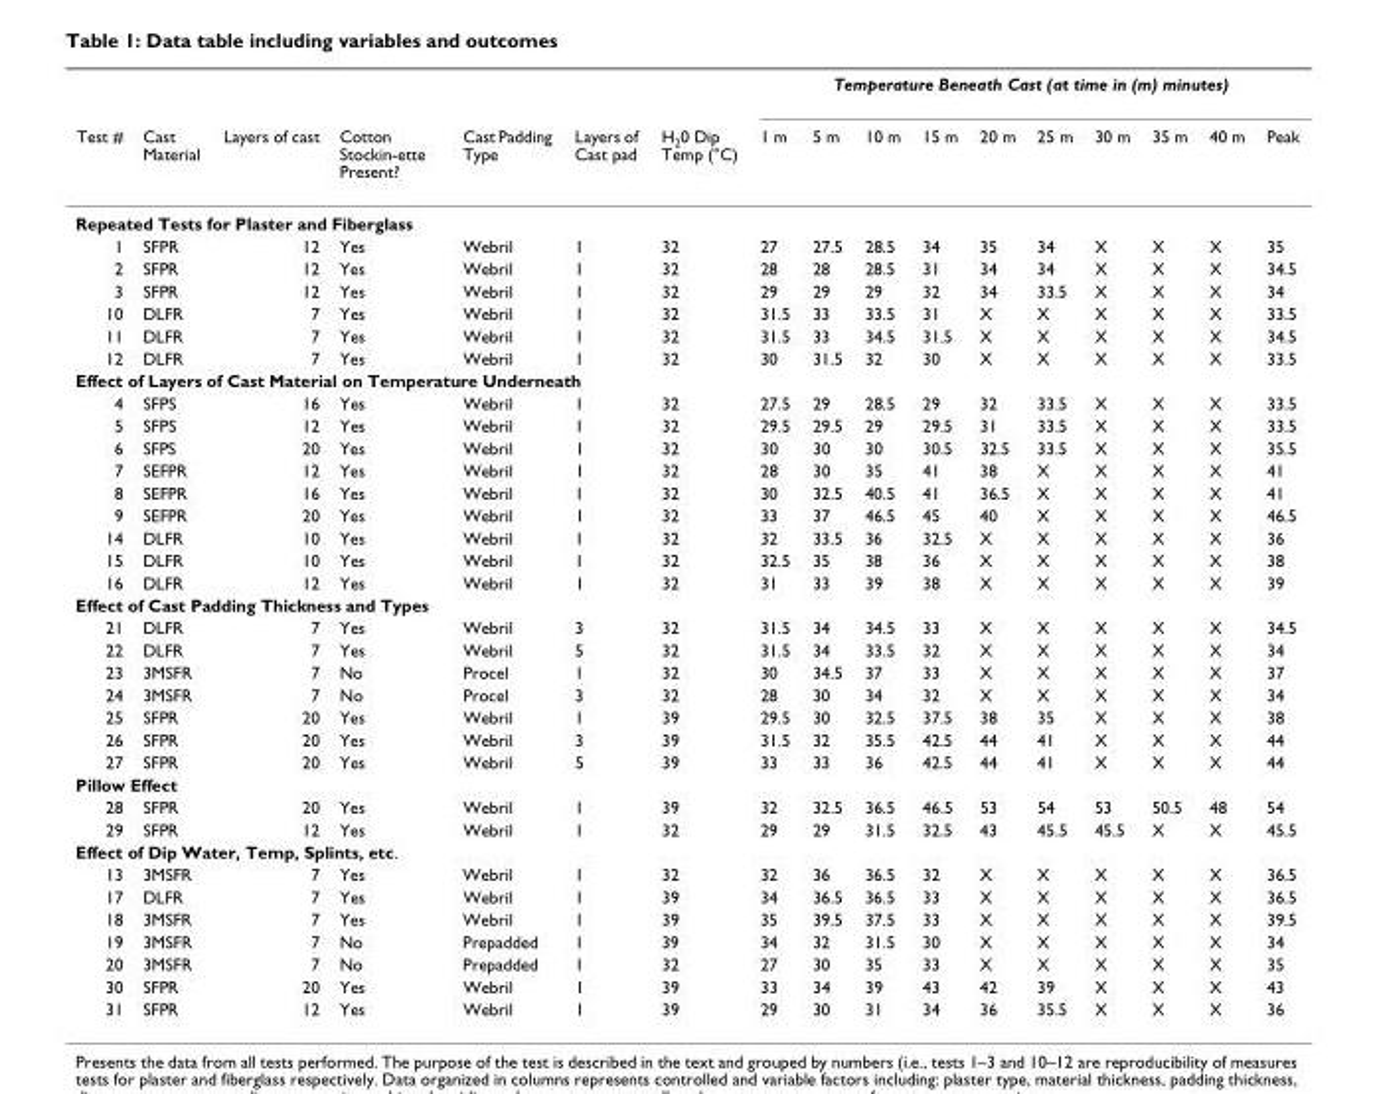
<table><thead><tr><td rowspan="2">Test #</td><td rowspan="2">Cast Material</td><td rowspan="2">Layers of cast</td><td rowspan="2">Cotton Stockin-ette Present?</td><td rowspan="2">Cast Padding Type</td><td rowspan="2">Layers of Cast pad</td><td rowspan="2">H<sub>2</sub>0 Dip Temp (°C)</td><td colspan="10">Temperature Beneath Cast (at time in (m) minutes)</td></tr><tr><td>1 m</td><td>5 m</td><td>10 m</td><td>15 m</td><td>20 m</td><td>25 m</td><td>30 m</td><td>35 m</td><td>40 m</td><td>Peak</td></tr></thead><tbody><tr><td colspan="17">Repeated Tests for Plaster and Fiberglass</td></tr><tr><td>1</td><td>SFPR</td><td>12</td><td>Yes</td><td>Webril</td><td>1</td><td>32</td><td>27</td><td>27.5</td><td>28.5</td><td>34</td><td>35</td><td>34</td><td>X</td><td>X</td><td>X</td><td>35</td></tr><tr><td>2</td><td>SFPR</td><td>12</td><td>Yes</td><td>Webril</td><td>1</td><td>32</td><td>28</td><td>28</td><td>28.5</td><td>31</td><td>34</td><td>34</td><td>X</td><td>X</td><td>X</td><td>34.5</td></tr><tr><td>3</td><td>SFPR</td><td>12</td><td>Yes</td><td>Webril</td><td>1</td><td>32</td><td>29</td><td>29</td><td>29</td><td>32</td><td>34</td><td>33.5</td><td>X</td><td>X</td><td>X</td><td>34</td></tr><tr><td>10</td><td>DLFR</td><td>7</td><td>Yes</td><td>Webril</td><td>1</td><td>32</td><td>31.5</td><td>33</td><td>33.5</td><td>31</td><td>X</td><td>X</td><td>X</td><td>X</td><td>X</td><td>33.5</td></tr><tr><td>11</td><td>DLFR</td><td>7</td><td>Yes</td><td>Webril</td><td>1</td><td>32</td><td>31.5</td><td>33</td><td>34.5</td><td>31.5</td><td>X</td><td>X</td><td>X</td><td>X</td><td>X</td><td>34.5</td></tr><tr><td>12</td><td>DLFR</td><td>7</td><td>Yes</td><td>Webril</td><td>1</td><td>32</td><td>30</td><td>31.5</td><td>32</td><td>30</td><td>X</td><td>X</td><td>X</td><td>X</td><td>X</td><td>33.5</td></tr><tr><td colspan="17">Effect of Layers of Cast Material on Temperature Underneath</td></tr><tr><td>4</td><td>SFPS</td><td>16</td><td>Yes</td><td>Webril</td><td>1</td><td>32</td><td>27.5</td><td>29</td><td>28.5</td><td>29</td><td>32</td><td>33.5</td><td>X</td><td>X</td><td>X</td><td>33.5</td></tr><tr><td>5</td><td>SFPS</td><td>12</td><td>Yes</td><td>Webril</td><td>1</td><td>32</td><td>29.5</td><td>29.5</td><td>29</td><td>29.5</td><td>31</td><td>33.5</td><td>X</td><td>X</td><td>X</td><td>33.5</td></tr><tr><td>6</td><td>SFPS</td><td>20</td><td>Yes</td><td>Webril</td><td>1</td><td>32</td><td>30</td><td>30</td><td>30</td><td>30.5</td><td>32.5</td><td>33.5</td><td>X</td><td>X</td><td>X</td><td>35.5</td></tr><tr><td>7</td><td>SEFPR</td><td>12</td><td>Yes</td><td>Webril</td><td>1</td><td>32</td><td>28</td><td>30</td><td>35</td><td>41</td><td>38</td><td>X</td><td>X</td><td>X</td><td>X</td><td>41</td></tr><tr><td>8</td><td>SEFPR</td><td>16</td><td>Yes</td><td>Webril</td><td>1</td><td>32</td><td>30</td><td>32.5</td><td>40.5</td><td>41</td><td>36.5</td><td>X</td><td>X</td><td>X</td><td>X</td><td>41</td></tr><tr><td>9</td><td>SEFPR</td><td>20</td><td>Yes</td><td>Webril</td><td>1</td><td>32</td><td>33</td><td>37</td><td>46.5</td><td>45</td><td>40</td><td>X</td><td>X</td><td>X</td><td>X</td><td>46.5</td></tr><tr><td>14</td><td>DLFR</td><td>10</td><td>Yes</td><td>Webril</td><td>1</td><td>32</td><td>32</td><td>33.5</td><td>36</td><td>32.5</td><td>X</td><td>X</td><td>X</td><td>X</td><td>X</td><td>36</td></tr><tr><td>15</td><td>DLFR</td><td>10</td><td>Yes</td><td>Webril</td><td>1</td><td>32</td><td>32.5</td><td>35</td><td>38</td><td>36</td><td>X</td><td>X</td><td>X</td><td>X</td><td>X</td><td>38</td></tr><tr><td>16</td><td>DLFR</td><td>12</td><td>Yes</td><td>Webril</td><td>1</td><td>32</td><td>31</td><td>33</td><td>39</td><td>38</td><td>X</td><td>X</td><td>X</td><td>X</td><td>X</td><td>39</td></tr><tr><td colspan="17">Effect of Cast Padding Thickness and Types</td></tr><tr><td>21</td><td>DLFR</td><td>7</td><td>Yes</td><td>Webril</td><td>3</td><td>32</td><td>31.5</td><td>34</td><td>34.5</td><td>33</td><td>X</td><td>X</td><td>X</td><td>X</td><td>X</td><td>34.5</td></tr><tr><td>22</td><td>DLFR</td><td>7</td><td>Yes</td><td>Webril</td><td>5</td><td>32</td><td>31.5</td><td>34</td><td>33.5</td><td>32</td><td>X</td><td>X</td><td>X</td><td>X</td><td>X</td><td>34</td></tr><tr><td>23</td><td>3MSFR</td><td>7</td><td>No</td><td>Procel</td><td>1</td><td>32</td><td>30</td><td>34.5</td><td>37</td><td>33</td><td>X</td><td>X</td><td>X</td><td>X</td><td>X</td><td>37</td></tr><tr><td>24</td><td>3MSFR</td><td>7</td><td>No</td><td>Procel</td><td>3</td><td>32</td><td>28</td><td>30</td><td>34</td><td>32</td><td>X</td><td>X</td><td>X</td><td>X</td><td>X</td><td>34</td></tr><tr><td>25</td><td>SFPR</td><td>20</td><td>Yes</td><td>Webril</td><td>1</td><td>39</td><td>29.5</td><td>30</td><td>32.5</td><td>37.5</td><td>38</td><td>35</td><td>X</td><td>X</td><td>X</td><td>38</td></tr><tr><td>26</td><td>SFPR</td><td>20</td><td>Yes</td><td>Webril</td><td>3</td><td>39</td><td>31.5</td><td>32</td><td>35.5</td><td>42.5</td><td>44</td><td>41</td><td>X</td><td>X</td><td>X</td><td>44</td></tr><tr><td>27</td><td>SFPR</td><td>20</td><td>Yes</td><td>Webril</td><td>5</td><td>39</td><td>33</td><td>33</td><td>36</td><td>42.5</td><td>44</td><td>41</td><td>X</td><td>X</td><td>X</td><td>44</td></tr><tr><td colspan="17">Pillow Effect</td></tr><tr><td>28</td><td>SFPR</td><td>20</td><td>Yes</td><td>Webril</td><td>1</td><td>39</td><td>32</td><td>32.5</td><td>36.5</td><td>46.5</td><td>53</td><td>54</td><td>53</td><td>50.5</td><td>48</td><td>54</td></tr><tr><td>29</td><td>SFPR</td><td>12</td><td>Yes</td><td>Webril</td><td>1</td><td>32</td><td>29</td><td>29</td><td>31.5</td><td>32.5</td><td>43</td><td>45.5</td><td>45.5</td><td>X</td><td>X</td><td>45.5</td></tr><tr><td colspan="17">Effect of Dip Water, Temp, Splints, etc.</td></tr><tr><td>13</td><td>3MSFR</td><td>7</td><td>Yes</td><td>Webril</td><td>1</td><td>32</td><td>32</td><td>36</td><td>36.5</td><td>32</td><td>X</td><td>X</td><td>X</td><td>X</td><td>X</td><td>36.5</td></tr><tr><td>17</td><td>DLFR</td><td>7</td><td>Yes</td><td>Webril</td><td>1</td><td>39</td><td>34</td><td>36.5</td><td>36.5</td><td>33</td><td>X</td><td>X</td><td>X</td><td>X</td><td>X</td><td>36.5</td></tr><tr><td>18</td><td>3MSFR</td><td>7</td><td>Yes</td><td>Webril</td><td>1</td><td>39</td><td>35</td><td>39.5</td><td>37.5</td><td>33</td><td>X</td><td>X</td><td>X</td><td>X</td><td>X</td><td>39.5</td></tr><tr><td>19</td><td>3MSFR</td><td>7</td><td>No</td><td>Prepadded</td><td>1</td><td>39</td><td>34</td><td>32</td><td>31.5</td><td>30</td><td>X</td><td>X</td><td>X</td><td>X</td><td>X</td><td>34</td></tr><tr><td>20</td><td>3MSFR</td><td>7</td><td>No</td><td>Prepadded</td><td>1</td><td>32</td><td>27</td><td>30</td><td>35</td><td>33</td><td>X</td><td>X</td><td>X</td><td>X</td><td>X</td><td>35</td></tr><tr><td>30</td><td>SFPR</td><td>20</td><td>Yes</td><td>Webril</td><td>1</td><td>39</td><td>33</td><td>34</td><td>39</td><td>43</td><td>42</td><td>39</td><td>X</td><td>X</td><td>X</td><td>43</td></tr><tr><td>31</td><td>SFPR</td><td>12</td><td>Yes</td><td>Webril</td><td>1</td><td>39</td><td>29</td><td>30</td><td>31</td><td>34</td><td>36</td><td>35.5</td><td>X</td><td>X</td><td>X</td><td>36</td></tr></tbody></table>